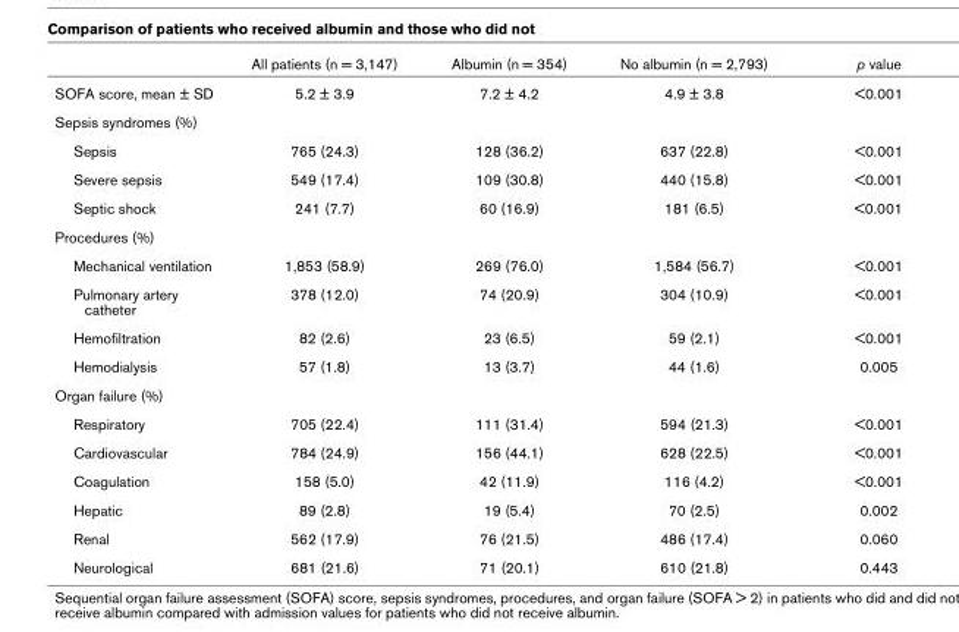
<table><thead><tr><td></td><td>All patients (n = 3,147)</td><td>Albumin (n = 354)</td><td>No albumin (n = 2,793)</td><td>p value</td></tr></thead><tbody><tr><td>SOFA score, mean ± SD</td><td>5.2 ± 3.9</td><td>7.2 ± 4.2</td><td>4.9 ± 3.8</td><td>&lt;0.001</td></tr><tr><td colspan="5">Sepsis syndromes (%)</td></tr><tr><td>Sepsis</td><td>765 (24.3)</td><td>128 (36.2)</td><td>637 (22.8)</td><td>&lt;0.001</td></tr><tr><td>Severe sepsis</td><td>549 (17.4)</td><td>109 (30.8)</td><td>440 (15.8)</td><td>&lt;0.001</td></tr><tr><td>Septic shock</td><td>241 (7.7)</td><td>60 (16.9)</td><td>181 (6.5)</td><td>&lt;0.001</td></tr><tr><td colspan="5">Procedures (%)</td></tr><tr><td>Mechanical ventilation</td><td>1,853 (58.9)</td><td>269 (76.0)</td><td>1,584 (56.7)</td><td>&lt;0.001</td></tr><tr><td>Pulmonary artery catheter</td><td>378 (12.0)</td><td>74 (20.9)</td><td>304 (10.9)</td><td>&lt;0.001</td></tr><tr><td>Hemofiltration</td><td>82 (2.6)</td><td>23 (6.5)</td><td>59 (2.1)</td><td>&lt;0.001</td></tr><tr><td>Hemodialysis</td><td>57 (1.8)</td><td>13 (3.7)</td><td>44 (1.6)</td><td>0.005</td></tr><tr><td colspan="5">Organ failure (%)</td></tr><tr><td>Respiratory</td><td>705 (22.4)</td><td>111 (31.4)</td><td>594 (21.3)</td><td>&lt;0.001</td></tr><tr><td>Cardiovascular</td><td>784 (24.9)</td><td>156 (44.1)</td><td>628 (22.5)</td><td>&lt;0.001</td></tr><tr><td>Coagulation</td><td>158 (5.0)</td><td>42 (11.9)</td><td>116 (4.2)</td><td>&lt;0.001</td></tr><tr><td>Hepatic</td><td>89 (2.8)</td><td>19 (5.4)</td><td>70 (2.5)</td><td>0.002</td></tr><tr><td>Renal</td><td>562 (17.9)</td><td>76 (21.5)</td><td>486 (17.4)</td><td>0.060</td></tr><tr><td>Neurological</td><td>681 (21.6)</td><td>71 (20.1)</td><td>610 (21.8)</td><td>0.443</td></tr></tbody></table>